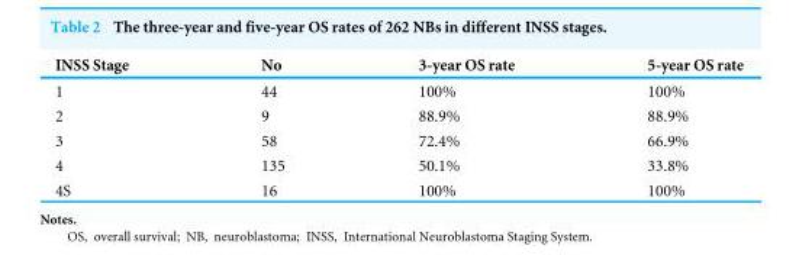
<table><thead><tr><td>INSS Stage</td><td>No</td><td>3-year OS rate</td><td>5-year OS rate</td></tr></thead><tbody><tr><td>1</td><td>44</td><td>100%</td><td>100%</td></tr><tr><td>2</td><td>9</td><td>88.9%</td><td>88.9%</td></tr><tr><td>3</td><td>58</td><td>72.4%</td><td>66.9%</td></tr><tr><td>4</td><td>135</td><td>50.1%</td><td>33.8%</td></tr><tr><td>4S</td><td>16</td><td>100%</td><td>100%</td></tr></tbody></table>